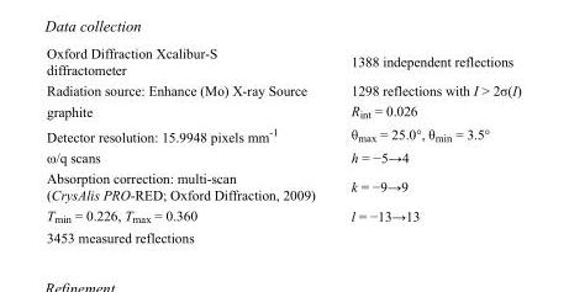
<table><tbody><tr><td>Oxford Diffraction Xcalibur-S diffractometer</td><td>1388 independent reflections</td></tr><tr><td>Radiation source: Enhance (Mo) X-ray Source</td><td>1298 reflections with I &gt; 2σ(I)</td></tr><tr><td>graphite</td><td>R<sub>int</sub> = 0.026</td></tr><tr><td>Detector resolution: 15.9948 pixels mm<sup>-1</sup></td><td>θ<sub>max</sub> = 25.0°, θ<sub>min</sub> = 3.5°</td></tr><tr><td>ω/q scans</td><td>h = −5→4</td></tr><tr><td>Absorption correction: multi-scan (CrysAlis PRO-RED; Oxford Diffraction, 2009)</td><td>k = −9→9</td></tr><tr><td>T<sub>min</sub> = 0.226, T<sub>max</sub> = 0.360</td><td>l = −13→13</td></tr><tr><td>3453 measured reflections</td><td></td></tr></tbody></table>